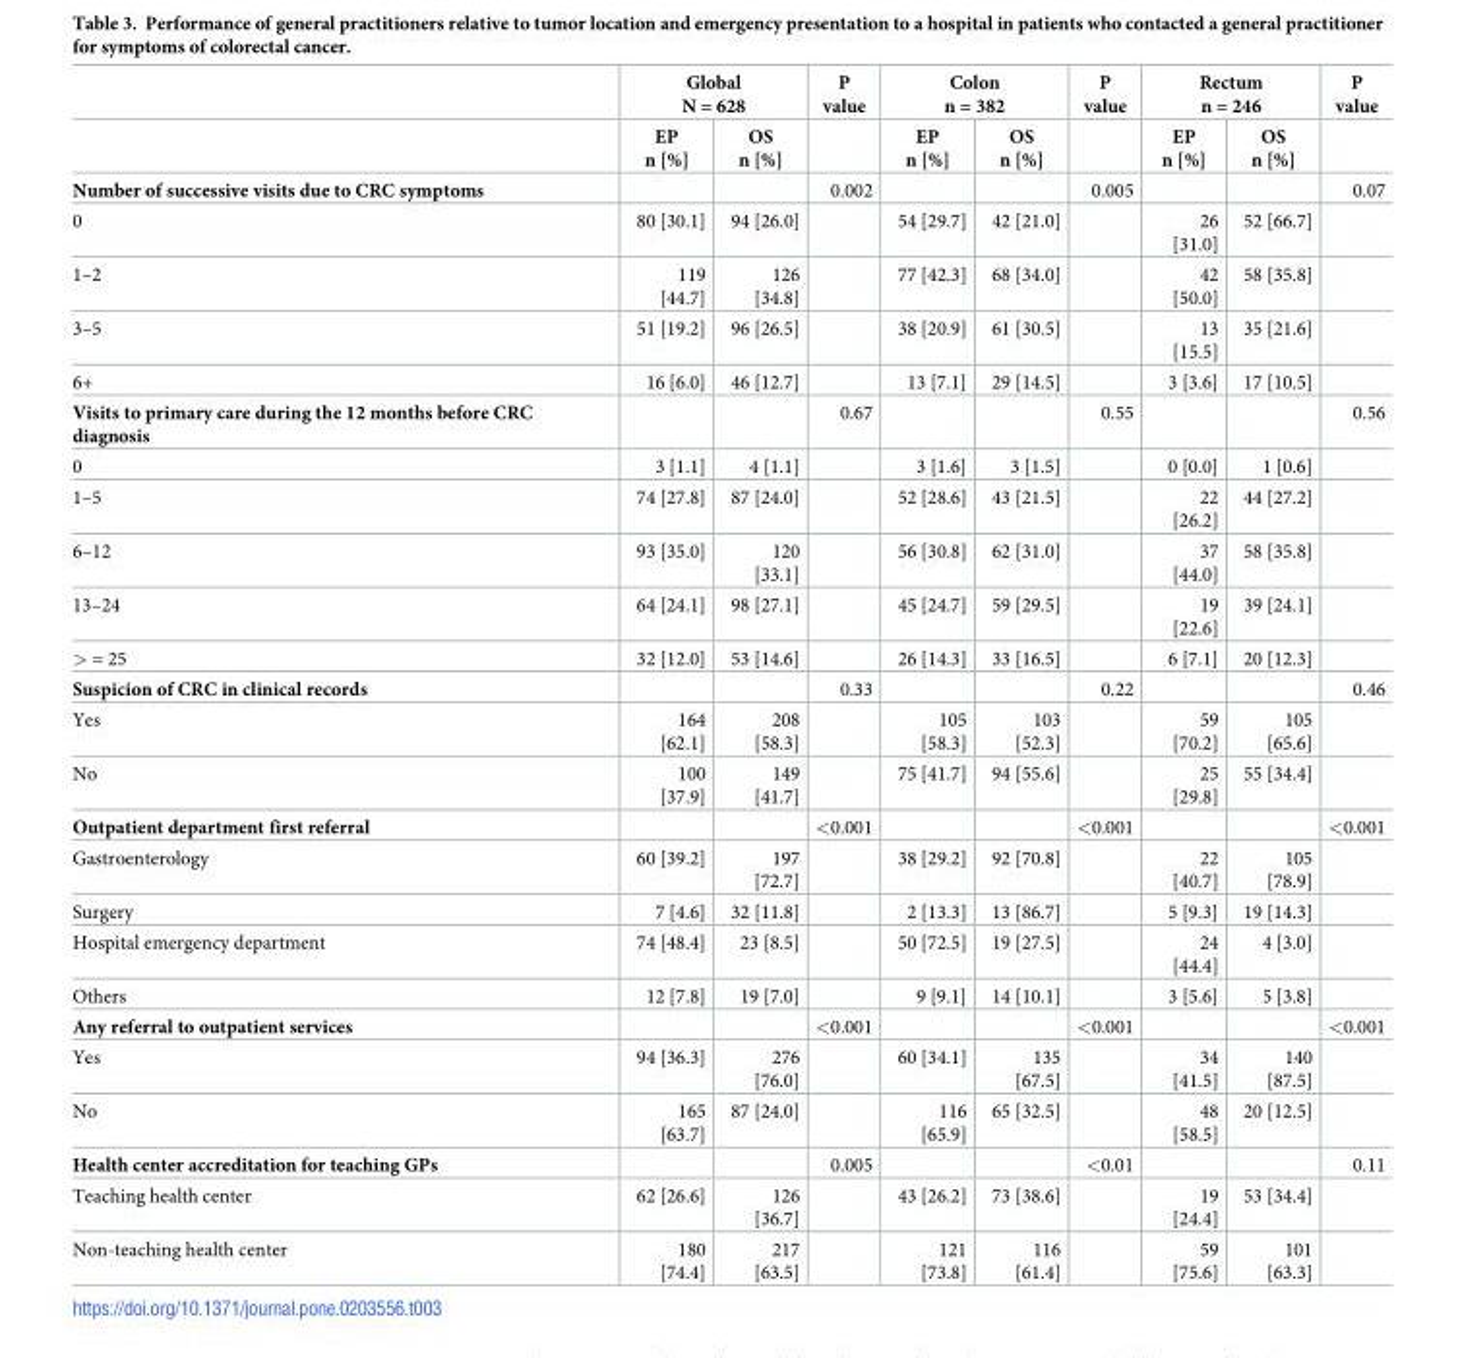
<table><thead><tr><td rowspan="2"></td><td colspan="2">Global N = 628</td><td rowspan="2">P value</td><td colspan="2">Colon n = 382</td><td rowspan="2">P value</td><td colspan="2">Rectum n = 246</td><td rowspan="2">P value</td></tr><tr><td>EP n [%]</td><td>OS n [%]</td><td>EP n [%]</td><td>OS n [%]</td><td>EP n [%]</td><td>OS n [%]</td></tr></thead><tbody><tr><td>Number of successive visits due to CRC symptoms</td><td></td><td></td><td>0.002</td><td></td><td></td><td>0.005</td><td></td><td></td><td>0.07</td></tr><tr><td>0</td><td>80 [30.1]</td><td>94 [26.0]</td><td></td><td>54 [29.7]</td><td>42 [21.0]</td><td></td><td>26 [31.0]</td><td>52 [66.7]</td><td></td></tr><tr><td>1–2</td><td>119 [44.7]</td><td>126 [34.8]</td><td></td><td>77 [42.3]</td><td>68 [34.0]</td><td></td><td>42 [50.0]</td><td>58 [35.8]</td><td></td></tr><tr><td>3–5</td><td>51 [19.2]</td><td>96 [26.5]</td><td></td><td>38 [20.9]</td><td>61 [30.5]</td><td></td><td>13 [15.5]</td><td>35 [21.6]</td><td></td></tr><tr><td>6+</td><td>16 [6.0]</td><td>46 [12.7]</td><td></td><td>13 [7.1]</td><td>29 [14.5]</td><td></td><td>3 [3.6]</td><td>17 [10.5]</td><td></td></tr><tr><td>Visits to primary care during the 12 months before CRC diagnosis</td><td></td><td></td><td>0.67</td><td></td><td></td><td>0.55</td><td></td><td></td><td>0.56</td></tr><tr><td>0</td><td>3 [1.1]</td><td>4 [1.1]</td><td></td><td>3 [1.6]</td><td>3 [1.5]</td><td></td><td>0 [0.0]</td><td>1 [0.6]</td><td></td></tr><tr><td>1–5</td><td>74 [27.8]</td><td>87 [24.0]</td><td></td><td>52 [28.6]</td><td>43 [21.5]</td><td></td><td>22 [26.2]</td><td>44 [27.2]</td><td></td></tr><tr><td>6–12</td><td>93 [35.0]</td><td>120 [33.1]</td><td></td><td>56 [30.8]</td><td>62 [31.0]</td><td></td><td>37 [44.0]</td><td>58 [35.8]</td><td></td></tr><tr><td>13–24</td><td>64 [24.1]</td><td>98 [27.1]</td><td></td><td>45 [24.7]</td><td>59 [29.5]</td><td></td><td>19 [22.6]</td><td>39 [24.1]</td><td></td></tr><tr><td>&gt; = 25</td><td>32 [12.0]</td><td>53 [14.6]</td><td></td><td>26 [14.3]</td><td>33 [16.5]</td><td></td><td>6 [7.1]</td><td>20 [12.3]</td><td></td></tr><tr><td>Suspicion of CRC in clinical records</td><td></td><td></td><td>0.33</td><td></td><td></td><td>0.22</td><td></td><td></td><td>0.46</td></tr><tr><td>Yes</td><td>164 [62.1]</td><td>208 [58.3]</td><td></td><td>105 [58.3]</td><td>103 [52.3]</td><td></td><td>59 [70.2]</td><td>105 [65.6]</td><td></td></tr><tr><td>No</td><td>100 [37.9]</td><td>149 [41.7]</td><td></td><td>75 [41.7]</td><td>94 [55.6]</td><td></td><td>25 [29.8]</td><td>55 [34.4]</td><td></td></tr><tr><td>Outpatient department first referral</td><td></td><td></td><td>&lt;0.001</td><td></td><td></td><td>&lt;0.001</td><td></td><td></td><td>&lt;0.001</td></tr><tr><td>Gastroenterology</td><td>60 [39.2]</td><td>197 [72.7]</td><td></td><td>38 [29.2]</td><td>92 [70.8]</td><td></td><td>22 [40.7]</td><td>105 [78.9]</td><td></td></tr><tr><td>Surgery</td><td>7 [4.6]</td><td>32 [11.8]</td><td></td><td>2 [13.3]</td><td>13 [86.7]</td><td></td><td>5 [9.3]</td><td>19 [14.3]</td><td></td></tr><tr><td>Hospital emergency department</td><td>74 [48.4]</td><td>23 [8.5]</td><td></td><td>50 [72.5]</td><td>19 [27.5]</td><td></td><td>24 [44.4]</td><td>4 [3.0]</td><td></td></tr><tr><td>Others</td><td>12 [7.8]</td><td>19 [7.0]</td><td></td><td>9 [9.1]</td><td>14 [10.1]</td><td></td><td>3 [5.6]</td><td>5 [3.8]</td><td></td></tr><tr><td>Any referral to outpatient services</td><td></td><td></td><td>&lt;0.001</td><td></td><td></td><td>&lt;0.001</td><td></td><td></td><td>&lt;0.001</td></tr><tr><td>Yes</td><td>94 [36.3]</td><td>276 [76.0]</td><td></td><td>60 [34.1]</td><td>135 [67.5]</td><td></td><td>34 [41.5]</td><td>140 [87.5]</td><td></td></tr><tr><td>No</td><td>165 [63.7]</td><td>87 [24.0]</td><td></td><td>116 [65.9]</td><td>65 [32.5]</td><td></td><td>48 [58.5]</td><td>20 [12.5]</td><td></td></tr><tr><td>Health center accreditation for teaching GPs</td><td></td><td></td><td>0.005</td><td></td><td></td><td>&lt;0.01</td><td></td><td></td><td>0.11</td></tr><tr><td>Teaching health center</td><td>62 [26.6]</td><td>126 [36.7]</td><td></td><td>43 [26.2]</td><td>73 [38.6]</td><td></td><td>19 [24.4]</td><td>53 [34.4]</td><td></td></tr><tr><td>Non-teaching health center</td><td>180 [74.4]</td><td>217 [63.5]</td><td></td><td>121 [73.8]</td><td>116 [61.4]</td><td></td><td>59 [75.6]</td><td>101 [63.3]</td><td></td></tr></tbody></table>